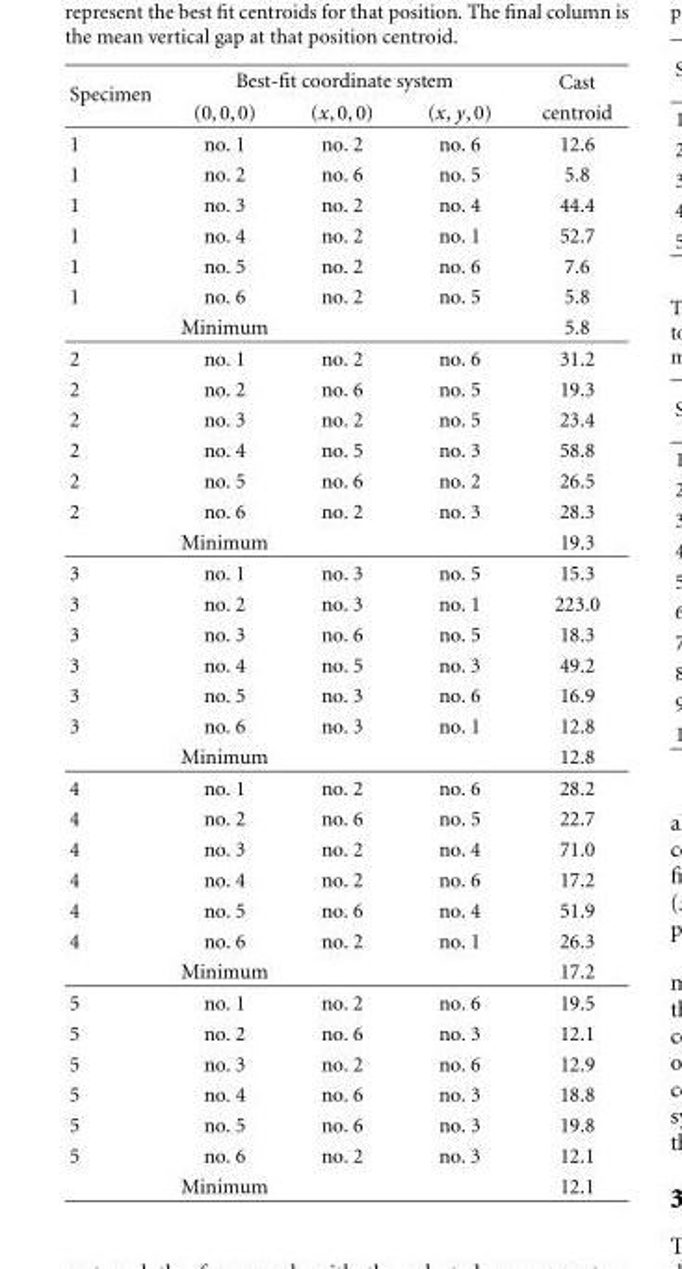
<table><thead><tr><td rowspan="2">Specimen</td><td colspan="3">Best-fit coordinate system</td><td rowspan="2">Cast centroid</td></tr><tr><td>(0,0,0)</td><td>(x,0,0)</td><td>(x, y,0)</td></tr></thead><tbody><tr><td>1</td><td>no. 1</td><td>no. 2</td><td>no. 6</td><td>12.6</td></tr><tr><td>1</td><td>no. 2</td><td>no. 6</td><td>no. 5</td><td>5.8</td></tr><tr><td>1</td><td>no. 3</td><td>no. 2</td><td>no. 4</td><td>44.4</td></tr><tr><td>1</td><td>no. 4</td><td>no. 2</td><td>no. 1</td><td>52.7</td></tr><tr><td>1</td><td>no. 5</td><td>no. 2</td><td>no. 6</td><td>7.6</td></tr><tr><td rowspan="2">1</td><td>no. 6</td><td>no. 2</td><td>no. 5</td><td>5.8</td></tr><tr><td>Minimum</td><td></td><td></td><td>5.8</td></tr><tr><td>2</td><td>no. 1</td><td>no. 2</td><td>no. 6</td><td>31.2</td></tr><tr><td>2</td><td>no. 2</td><td>no. 6</td><td>no. 5</td><td>19.3</td></tr><tr><td>2</td><td>no. 3</td><td>no. 2</td><td>no. 5</td><td>23.4</td></tr><tr><td>2</td><td>no. 4</td><td>no. 5</td><td>no. 3</td><td>58.8</td></tr><tr><td>2</td><td>no. 5</td><td>no. 6</td><td>no. 2</td><td>26.5</td></tr><tr><td rowspan="2">2</td><td>no. 6</td><td>no. 2</td><td>no. 3</td><td>28.3</td></tr><tr><td>Minimum</td><td></td><td></td><td>19.3</td></tr><tr><td>3</td><td>no. 1</td><td>no. 3</td><td>no. 5</td><td>15.3</td></tr><tr><td>3</td><td>no. 2</td><td>no. 3</td><td>no. 1</td><td>223.0</td></tr><tr><td>3</td><td>no. 3</td><td>no. 6</td><td>no. 5</td><td>18.3</td></tr><tr><td>3</td><td>no. 4</td><td>no. 5</td><td>no. 3</td><td>49.2</td></tr><tr><td>3</td><td>no. 5</td><td>no. 3</td><td>no. 6</td><td>16.9</td></tr><tr><td rowspan="2">3</td><td>no. 6</td><td>no. 3</td><td>no. 1</td><td>12.8</td></tr><tr><td>Minimum</td><td></td><td></td><td>12.8</td></tr><tr><td>4</td><td>no. 1</td><td>no. 2</td><td>no. 6</td><td>28.2</td></tr><tr><td>4</td><td>no. 2</td><td>no. 6</td><td>no. 5</td><td>22.7</td></tr><tr><td>4</td><td>no. 3</td><td>no. 2</td><td>no. 4</td><td>71.0</td></tr><tr><td>4</td><td>no. 4</td><td>no. 2</td><td>no. 6</td><td>17.2</td></tr><tr><td>4</td><td>no. 5</td><td>no. 6</td><td>no. 4</td><td>51.9</td></tr><tr><td rowspan="2">4</td><td>no. 6</td><td>no. 2</td><td>no. 1</td><td>26.3</td></tr><tr><td>Minimum</td><td></td><td></td><td>17.2</td></tr><tr><td>5</td><td>no. 1</td><td>no. 2</td><td>no. 6</td><td>19.5</td></tr><tr><td>5</td><td>no. 2</td><td>no. 6</td><td>no. 3</td><td>12.1</td></tr><tr><td>5</td><td>no. 3</td><td>no. 2</td><td>no. 6</td><td>12.9</td></tr><tr><td>5</td><td>no. 4</td><td>no. 6</td><td>no. 3</td><td>18.8</td></tr><tr><td>5</td><td>no. 5</td><td>no. 6</td><td>no. 3</td><td>19.8</td></tr><tr><td rowspan="2">5</td><td>no. 6</td><td>no. 2</td><td>no. 3</td><td>12.1</td></tr><tr><td>Minimum</td><td></td><td></td><td>12.1</td></tr></tbody></table>